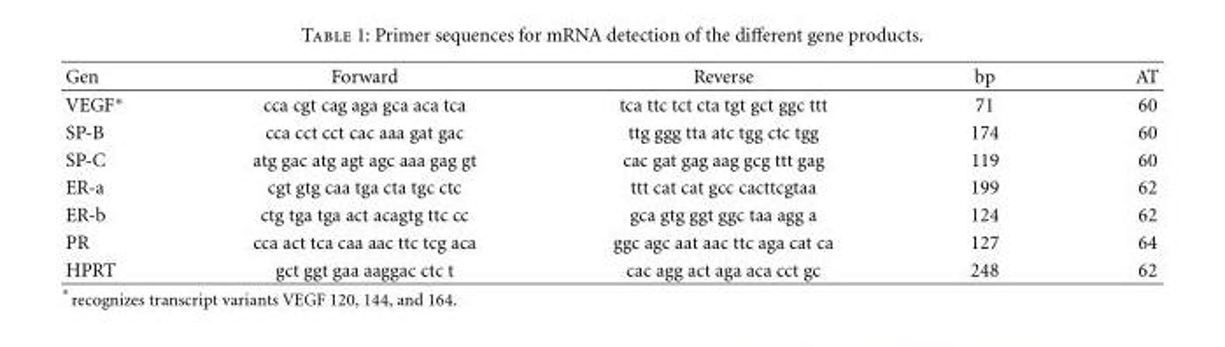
<table><thead><tr><td>Gen</td><td>Forward</td><td>Reverse</td><td>bp</td><td>AT</td></tr></thead><tbody><tr><td>VEGF∗</td><td>cca cgt cag aga gca aca tca</td><td>tca ttc tct cta tgt gct ggc ttt</td><td>71</td><td>60</td></tr><tr><td>SP-B</td><td>cca cct cct cac aaa gat gac</td><td>ttg ggg tta atc tgg ctc tgg</td><td>174</td><td>60</td></tr><tr><td>SP-C</td><td>atg gac atg agt agc aaa gag gt</td><td>cac gat gag aag gcg ttt gag</td><td>119</td><td>60</td></tr><tr><td>ER-a</td><td>cgt gtg caa tga cta tgc ctc</td><td>ttt cat cat gcc cacttcgtaa</td><td>199</td><td>62</td></tr><tr><td>ER-b</td><td>ctg tga tga act acagtg ttc cc</td><td>gca gtg ggt ggc taa agg a</td><td>124</td><td>62</td></tr><tr><td>PR</td><td>cca act tca caa aac ttc tcg aca</td><td>ggc agc aat aac ttc aga cat ca</td><td>127</td><td>64</td></tr><tr><td>HPRT</td><td>gct ggt gaa aaggac ctc t</td><td>cac agg act aga aca cct gc</td><td>248</td><td>62</td></tr></tbody></table>